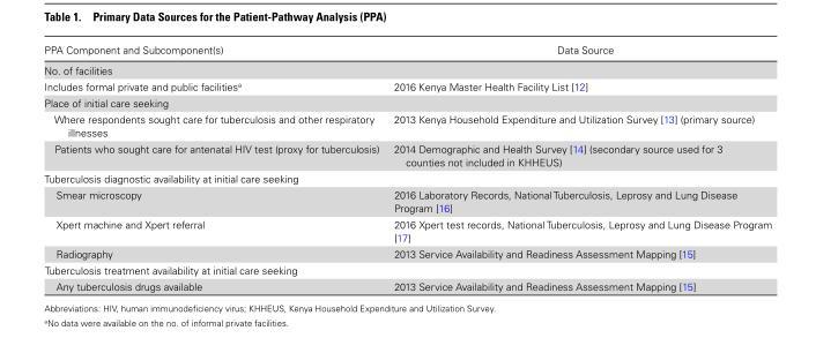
<table><thead><tr><td>PPA Component and Subcomponent(s)</td><td>Data Source</td></tr></thead><tbody><tr><td colspan="2">No. of facilities</td></tr><tr><td>Includes formal private and public facilities<sup>a</sup></td><td>2016 Kenya Master Health Facility List [12]</td></tr><tr><td colspan="2">Place of initial care seeking</td></tr><tr><td>Where respondents sought care for tuberculosis and other respiratory illnesses</td><td>2013 Kenya Household Expenditure and Utilization Survey [13] (primary source)</td></tr><tr><td>Patients who sought care for antenatal HIV test (proxy for tuberculosis)</td><td>2014 Demographic and Health Survey [14] (secondary source used for 3 counties not included in KHHEUS)</td></tr><tr><td colspan="2">Tuberculosis diagnostic availability at initial care seeking</td></tr><tr><td>Smear microscopy</td><td>2016 Laboratory Records, National Tuberculosis, Leprosy and Lung Disease Program [16]</td></tr><tr><td>Xpert machine and Xpert referral</td><td>2016 Xpert test records, National Tuberculosis, Leprosy and Lung Disease Program [17]</td></tr><tr><td>Radiography</td><td>2013 Service Availability and Readiness Assessment Mapping [15]</td></tr><tr><td colspan="2">Tuberculosis treatment availability at initial care seeking</td></tr><tr><td>Any tuberculosis drugs available</td><td>2013 Service Availability and Readiness Assessment Mapping [15]</td></tr></tbody></table>